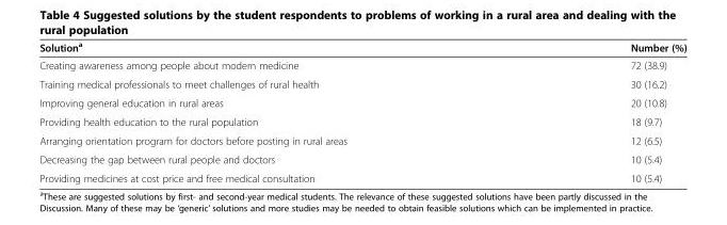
<table><thead><tr><td>Solution<sup>a</sup></td><td>Number (%)</td></tr></thead><tbody><tr><td>Creating awareness among people about modern medicine</td><td>72 (38.9)</td></tr><tr><td>Training medical professionals to meet challenges of rural health</td><td>30 (16.2)</td></tr><tr><td>Improving general education in rural areas</td><td>20 (10.8)</td></tr><tr><td>Providing health education to the rural population</td><td>18 (9.7)</td></tr><tr><td>Arranging orientation program for doctors before posting in rural areas</td><td>12 (6.5)</td></tr><tr><td>Decreasing the gap between rural people and doctors</td><td>10 (5.4)</td></tr><tr><td>Providing medicines at cost price and free medical consultation</td><td>10 (5.4)</td></tr></tbody></table>